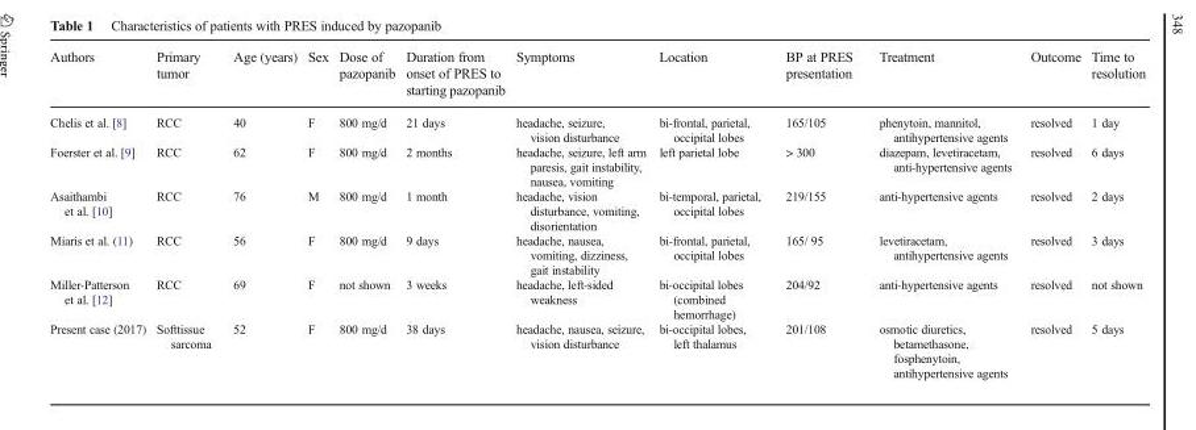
<table><thead><tr><td>Authors</td><td>Primary tumor</td><td>Age (years)</td><td>Sex</td><td>Dose of pazopanib</td><td>Duration from onset of PRES to starting pazopanib</td><td>Symptoms</td><td>Location</td><td>BP at PRES presentation</td><td>Treatment</td><td>Outcome</td><td>Time to resolution</td></tr></thead><tbody><tr><td>Chelis et al. [8]</td><td>RCC</td><td>40</td><td>F</td><td>800 mg/d</td><td>21 days</td><td>headache, seizure, vision disturbance</td><td>bi-frontal, parietal, occipital lobes</td><td>165/105</td><td>phenytoin, mannitol, antihypertensive agents</td><td>resolved</td><td>1 day</td></tr><tr><td>Foerster et al. [9]</td><td>RCC</td><td>62</td><td>F</td><td>800 mg/d</td><td>2 months</td><td>headache, seizure, left arm paresis, gait instability, nausea, vomiting</td><td>left parietal lobe</td><td>&gt; 300</td><td>diazepam, levetiracetam, anti-hypertensive agents</td><td>resolved</td><td>6 days</td></tr><tr><td>Asaithambi et al. [10]</td><td>RCC</td><td>76</td><td>M</td><td>800 mg/d</td><td>1 month</td><td>headache, vision disturbance, vomiting, disorientation</td><td>bi-temporal, parietal, occipital lobes</td><td>219/155</td><td>anti-hypertensive agents</td><td>resolved</td><td>2 days</td></tr><tr><td>Miaris et al. (11)</td><td>RCC</td><td>56</td><td>F</td><td>800 mg/d</td><td>9 days</td><td>headache, nausea, vomiting, dizziness, gait instability</td><td>bi-frontal, parietal, occipital lobes</td><td>165/ 95</td><td>levetiracetam, antihypertensive agents</td><td>resolved</td><td>3 days</td></tr><tr><td>Miller-Patterson et al. [12]</td><td>RCC</td><td>69</td><td>F</td><td>not shown</td><td>3 weeks</td><td>headache, left-sided weakness</td><td>bi-occipital lobes (combined hemorrhage)</td><td>204/92</td><td>anti-hypertensive agents</td><td>resolved</td><td>not shown</td></tr><tr><td>Present case (2017)</td><td>Softtissue sarcoma</td><td>52</td><td>F</td><td>800 mg/d</td><td>38 days</td><td>headache, nausea, seizure, vision disturbance</td><td>bi-occipital lobes, left thalamus</td><td>201/108</td><td>osmotic diuretics, betamethasone, fosphenytoin, antihypertensive agents</td><td>resolved</td><td>5 days</td></tr></tbody></table>